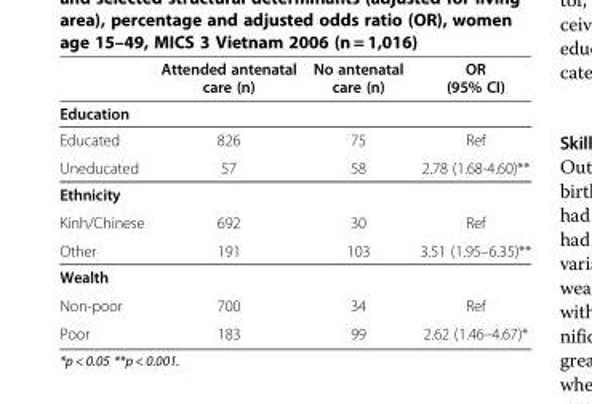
<table><thead><tr><td></td><td>Attended antenatal care (n)</td><td>No antenatal care (n)</td><td>OR (95% CI)</td></tr></thead><tbody><tr><td colspan="4">Education</td></tr><tr><td>Educated</td><td>826</td><td>75</td><td>Ref</td></tr><tr><td>Uneducated</td><td>57</td><td>58</td><td>2.78 (1.68-4.60)**</td></tr><tr><td colspan="4">Ethnicity</td></tr><tr><td>Kinh/Chinese</td><td>692</td><td>30</td><td>Ref</td></tr><tr><td>Other</td><td>191</td><td>103</td><td>3.51 (1.95–6.35)**</td></tr><tr><td colspan="4">Wealth</td></tr><tr><td>Non-poor</td><td>700</td><td>34</td><td>Ref</td></tr><tr><td>Poor</td><td>183</td><td>99</td><td>2.62 (1.46–4.67)*</td></tr></tbody></table>